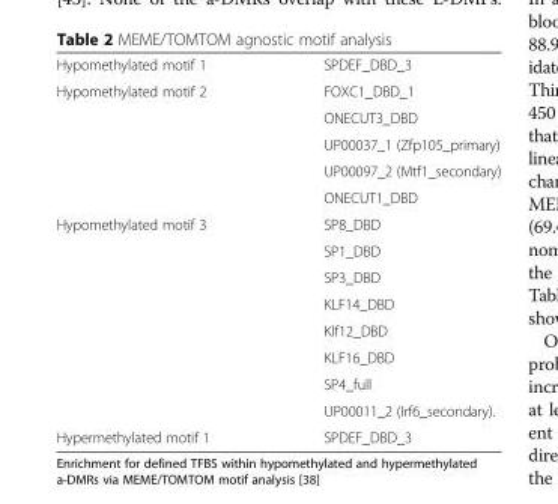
<table><tbody><tr><td>Hypomethylated motif 1</td><td>SPDEF_DBD_3</td></tr><tr><td rowspan="5">Hypomethylated motif 2</td><td>FOXC1_DBD_1</td></tr><tr><td>ONECUT3_DBD</td></tr><tr><td>UP00037_1 (Zfp105_primary)</td></tr><tr><td>UP00097_2 (Mtf1_secondary)</td></tr><tr><td>ONECUT1_DBD</td></tr><tr><td rowspan="8">Hypomethylated motif 3</td><td>SP8_DBD</td></tr><tr><td>SP1_DBD</td></tr><tr><td>SP3_DBD</td></tr><tr><td>KLF14_DBD</td></tr><tr><td>Klf12_DBD</td></tr><tr><td>KLF16_DBD</td></tr><tr><td>SP4_full</td></tr><tr><td>UP00011_2 (Irf6_secondary).</td></tr><tr><td>Hypermethylated motif 1</td><td>SPDEF_DBD_3</td></tr></tbody></table>